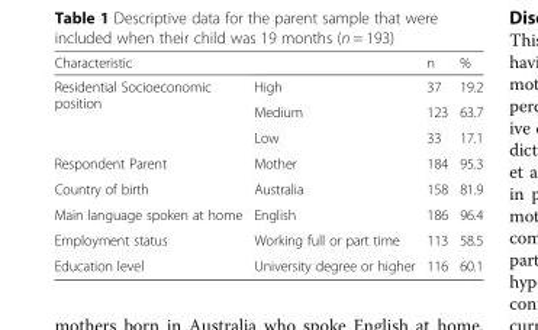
<table><thead><tr><td>Characteristic</td><td></td><td>n</td><td>%</td></tr></thead><tbody><tr><td rowspan="3">Residential Socioeconomic position</td><td>High</td><td>37</td><td>19.2</td></tr><tr><td>Medium</td><td>123</td><td>63.7</td></tr><tr><td>Low</td><td>33</td><td>17.1</td></tr><tr><td>Respondent Parent</td><td>Mother</td><td>184</td><td>95.3</td></tr><tr><td>Country of birth</td><td>Australia</td><td>158</td><td>81.9</td></tr><tr><td>Main language spoken at home</td><td>English</td><td>186</td><td>96.4</td></tr><tr><td>Employment status</td><td>Working full or part time</td><td>113</td><td>58.5</td></tr><tr><td>Education level</td><td>University degree or higher</td><td>116</td><td>60.1</td></tr></tbody></table>